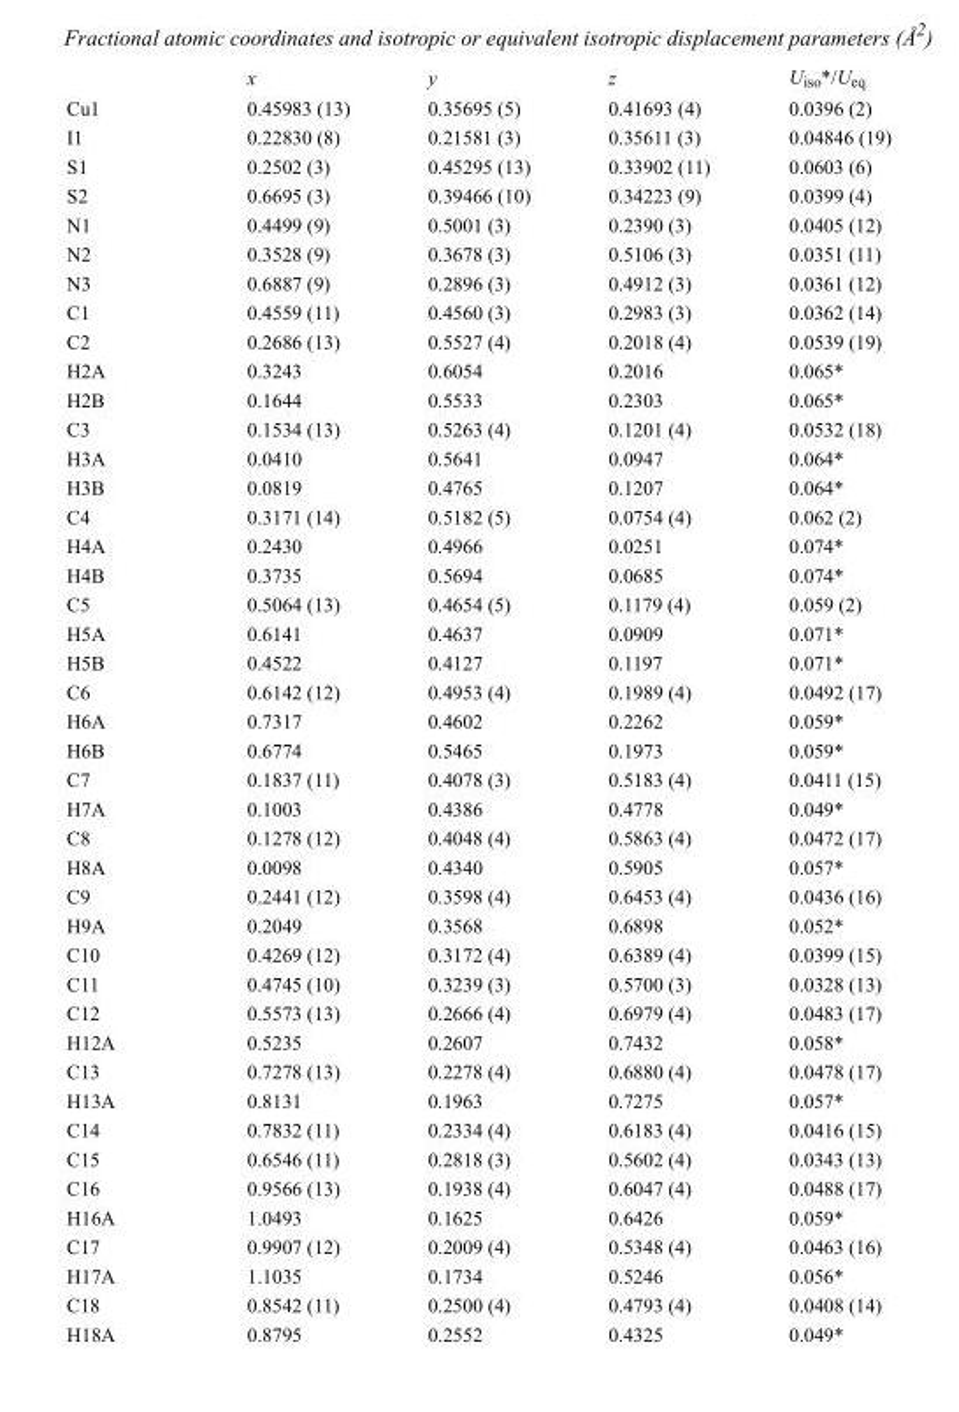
<table><thead><tr><td></td><td>x</td><td>y</td><td>z</td><td>U<sub>iso</sub>*/U<sub>eq</sub></td></tr></thead><tbody><tr><td>Cu1</td><td>0.45983 (13)</td><td>0.35695 (5)</td><td>0.41693 (4)</td><td>0.0396 (2)</td></tr><tr><td>I1</td><td>0.22830 (8)</td><td>0.21581 (3)</td><td>0.35611 (3)</td><td>0.04846 (19)</td></tr><tr><td>S1</td><td>0.2502 (3)</td><td>0.45295 (13)</td><td>0.33902 (11)</td><td>0.0603 (6)</td></tr><tr><td>S2</td><td>0.6695 (3)</td><td>0.39466 (10)</td><td>0.34223 (9)</td><td>0.0399 (4)</td></tr><tr><td>N1</td><td>0.4499 (9)</td><td>0.5001 (3)</td><td>0.2390 (3)</td><td>0.0405 (12)</td></tr><tr><td>N2</td><td>0.3528 (9)</td><td>0.3678 (3)</td><td>0.5106 (3)</td><td>0.0351 (11)</td></tr><tr><td>N3</td><td>0.6887 (9)</td><td>0.2896 (3)</td><td>0.4912 (3)</td><td>0.0361 (12)</td></tr><tr><td>C1</td><td>0.4559 (11)</td><td>0.4560 (3)</td><td>0.2983 (3)</td><td>0.0362 (14)</td></tr><tr><td>C2</td><td>0.2686 (13)</td><td>0.5527 (4)</td><td>0.2018 (4)</td><td>0.0539 (19)</td></tr><tr><td>H2A</td><td>0.3243</td><td>0.6054</td><td>0.2016</td><td>0.065*</td></tr><tr><td>H2B</td><td>0.1644</td><td>0.5533</td><td>0.2303</td><td>0.065*</td></tr><tr><td>C3</td><td>0.1534 (13)</td><td>0.5263 (4)</td><td>0.1201 (4)</td><td>0.0532 (18)</td></tr><tr><td>H3A</td><td>0.0410</td><td>0.5641</td><td>0.0947</td><td>0.064*</td></tr><tr><td>H3B</td><td>0.0819</td><td>0.4765</td><td>0.1207</td><td>0.064*</td></tr><tr><td>C4</td><td>0.3171 (14)</td><td>0.5182 (5)</td><td>0.0754 (4)</td><td>0.062 (2)</td></tr><tr><td>H4A</td><td>0.2430</td><td>0.4966</td><td>0.0251</td><td>0.074*</td></tr><tr><td>H4B</td><td>0.3735</td><td>0.5694</td><td>0.0685</td><td>0.074*</td></tr><tr><td>C5</td><td>0.5064 (13)</td><td>0.4654 (5)</td><td>0.1179 (4)</td><td>0.059 (2)</td></tr><tr><td>H5A</td><td>0.6141</td><td>0.4637</td><td>0.0909</td><td>0.071*</td></tr><tr><td>H5B</td><td>0.4522</td><td>0.4127</td><td>0.1197</td><td>0.071*</td></tr><tr><td>C6</td><td>0.6142 (12)</td><td>0.4953 (4)</td><td>0.1989 (4)</td><td>0.0492 (17)</td></tr><tr><td>H6A</td><td>0.7317</td><td>0.4602</td><td>0.2262</td><td>0.059*</td></tr><tr><td>H6B</td><td>0.6774</td><td>0.5465</td><td>0.1973</td><td>0.059*</td></tr><tr><td>C7</td><td>0.1837 (11)</td><td>0.4078 (3)</td><td>0.5183 (4)</td><td>0.0411 (15)</td></tr><tr><td>H7A</td><td>0.1003</td><td>0.4386</td><td>0.4778</td><td>0.049*</td></tr><tr><td>C8</td><td>0.1278 (12)</td><td>0.4048 (4)</td><td>0.5863 (4)</td><td>0.0472 (17)</td></tr><tr><td>H8A</td><td>0.0098</td><td>0.4340</td><td>0.5905</td><td>0.057*</td></tr><tr><td>C9</td><td>0.2441 (12)</td><td>0.3598 (4)</td><td>0.6453 (4)</td><td>0.0436 (16)</td></tr><tr><td>H9A</td><td>0.2049</td><td>0.3568</td><td>0.6898</td><td>0.052*</td></tr><tr><td>C10</td><td>0.4269 (12)</td><td>0.3172 (4)</td><td>0.6389 (4)</td><td>0.0399 (15)</td></tr><tr><td>C11</td><td>0.4745 (10)</td><td>0.3239 (3)</td><td>0.5700 (3)</td><td>0.0328 (13)</td></tr><tr><td>C12</td><td>0.5573 (13)</td><td>0.2666 (4)</td><td>0.6979 (4)</td><td>0.0483 (17)</td></tr><tr><td>H12A</td><td>0.5235</td><td>0.2607</td><td>0.7432</td><td>0.058*</td></tr><tr><td>C13</td><td>0.7278 (13)</td><td>0.2278 (4)</td><td>0.6880 (4)</td><td>0.0478 (17)</td></tr><tr><td>H13A</td><td>0.8131</td><td>0.1963</td><td>0.7275</td><td>0.057*</td></tr><tr><td>C14</td><td>0.7832 (11)</td><td>0.2334 (4)</td><td>0.6183 (4)</td><td>0.0416 (15)</td></tr><tr><td>C15</td><td>0.6546 (11)</td><td>0.2818 (3)</td><td>0.5602 (4)</td><td>0.0343 (13)</td></tr><tr><td>C16</td><td>0.9566 (13)</td><td>0.1938 (4)</td><td>0.6047 (4)</td><td>0.0488 (17)</td></tr><tr><td>H16A</td><td>1.0493</td><td>0.1625</td><td>0.6426</td><td>0.059*</td></tr><tr><td>C17</td><td>0.9907 (12)</td><td>0.2009 (4)</td><td>0.5348 (4)</td><td>0.0463 (16)</td></tr><tr><td>H17A</td><td>1.1035</td><td>0.1734</td><td>0.5246</td><td>0.056*</td></tr><tr><td>C18</td><td>0.8542 (11)</td><td>0.2500 (4)</td><td>0.4793 (4)</td><td>0.0408 (14)</td></tr><tr><td>H18A</td><td>0.8795</td><td>0.2552</td><td>0.4325</td><td>0.049*</td></tr></tbody></table>